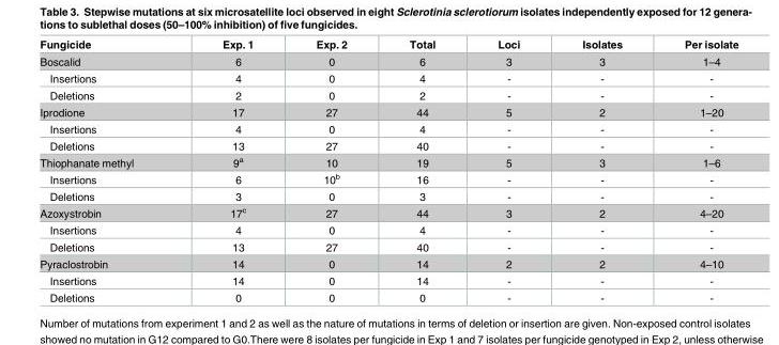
<table><thead><tr><td>Fungicide</td><td>Exp. 1</td><td>Exp. 2</td><td>Total</td><td>Loci</td><td>Isolates</td><td>Per isolate</td></tr></thead><tbody><tr><td>Boscalid</td><td>6</td><td>0</td><td>6</td><td>3</td><td>3</td><td>1–4</td></tr><tr><td>Insertions</td><td>4</td><td>0</td><td>4</td><td>-</td><td>-</td><td>-</td></tr><tr><td>Deletions</td><td>2</td><td>0</td><td>2</td><td>-</td><td>-</td><td>-</td></tr><tr><td>Iprodione</td><td>17</td><td>27</td><td>44</td><td>5</td><td>2</td><td>1–20</td></tr><tr><td>Insertions</td><td>4</td><td>0</td><td>4</td><td>-</td><td>-</td><td>-</td></tr><tr><td>Deletions</td><td>13</td><td>27</td><td>40</td><td>-</td><td>-</td><td>-</td></tr><tr><td>Thiophanate methyl</td><td>9<sup>a</sup></td><td>10</td><td>19</td><td>5</td><td>3</td><td>1–6</td></tr><tr><td>Insertions</td><td>6</td><td>10<sup>b</sup></td><td>16</td><td>-</td><td>-</td><td>-</td></tr><tr><td>Deletions</td><td>3</td><td>0</td><td>3</td><td>-</td><td>-</td><td>-</td></tr><tr><td>Azoxystrobin</td><td>17<sup>c</sup></td><td>27</td><td>44</td><td>3</td><td>2</td><td>4–20</td></tr><tr><td>Insertions</td><td>4</td><td>0</td><td>4</td><td>-</td><td>-</td><td>-</td></tr><tr><td>Deletions</td><td>13</td><td>27</td><td>40</td><td>-</td><td>-</td><td>-</td></tr><tr><td>Pyraclostrobin</td><td>14</td><td>0</td><td>14</td><td>2</td><td>2</td><td>4–10</td></tr><tr><td>Insertions</td><td>14</td><td>0</td><td>14</td><td>-</td><td>-</td><td>-</td></tr><tr><td>Deletions</td><td>0</td><td>0</td><td>0</td><td>-</td><td>-</td><td>-</td></tr></tbody></table>